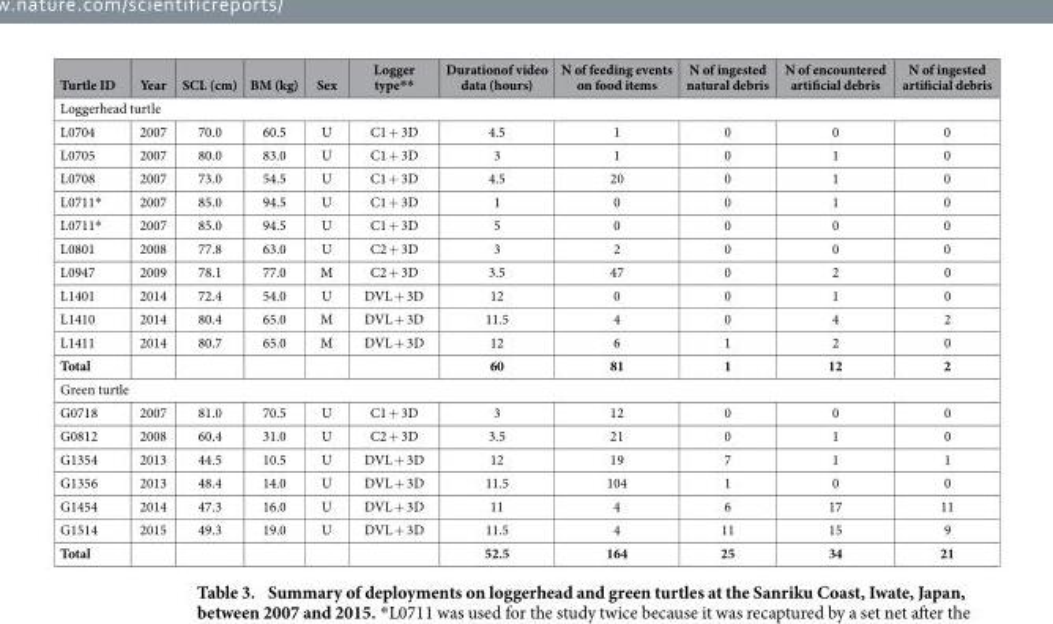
<table><thead><tr><td>Turtle ID</td><td>Year</td><td>SCL (cm)</td><td>BM (kg)</td><td>Sex</td><td>Logger type**</td><td>Durationof video data (hours)</td><td>N of feeding events on food items</td><td>N of ingested natural debris</td><td>N of encountered artificial debris</td><td>N of ingested artificial debris</td></tr></thead><tbody><tr><td colspan="11">Loggerhead turtle</td></tr><tr><td>L0704</td><td>2007</td><td>70.0</td><td>60.5</td><td>U</td><td>C1 + 3D</td><td>4.5</td><td>1</td><td>0</td><td>0</td><td>0</td></tr><tr><td>L0705</td><td>2007</td><td>80.0</td><td>83.0</td><td>U</td><td>C1 + 3D</td><td>3</td><td>1</td><td>0</td><td>1</td><td>0</td></tr><tr><td>L0708</td><td>2007</td><td>73.0</td><td>54.5</td><td>U</td><td>C1 + 3D</td><td>4.5</td><td>20</td><td>0</td><td>1</td><td>0</td></tr><tr><td>L0711*</td><td>2007</td><td>85.0</td><td>94.5</td><td>U</td><td>C1 + 3D</td><td>1</td><td>0</td><td>0</td><td>1</td><td>0</td></tr><tr><td>L0711*</td><td>2007</td><td>85.0</td><td>94.5</td><td>U</td><td>C1 + 3D</td><td>5</td><td>0</td><td>0</td><td>0</td><td>0</td></tr><tr><td>L0801</td><td>2008</td><td>77.8</td><td>63.0</td><td>U</td><td>C2 + 3D</td><td>3</td><td>2</td><td>0</td><td>0</td><td>0</td></tr><tr><td>L0947</td><td>2009</td><td>78.1</td><td>77.0</td><td>M</td><td>C2 + 3D</td><td>3.5</td><td>47</td><td>0</td><td>2</td><td>0</td></tr><tr><td>L1401</td><td>2014</td><td>72.4</td><td>54.0</td><td>U</td><td>DVL + 3D</td><td>12</td><td>0</td><td>0</td><td>1</td><td>0</td></tr><tr><td>L1410</td><td>2014</td><td>80.4</td><td>65.0</td><td>M</td><td>DVL + 3D</td><td>11.5</td><td>4</td><td>0</td><td>4</td><td>2</td></tr><tr><td>L1411</td><td>2014</td><td>80.7</td><td>65.0</td><td>M</td><td>DVL + 3D</td><td>12</td><td>6</td><td>1</td><td>2</td><td>0</td></tr><tr><td>Total</td><td></td><td></td><td></td><td></td><td></td><td>60</td><td>81</td><td>1</td><td>12</td><td>2</td></tr><tr><td colspan="11">Green turtle</td></tr><tr><td>G0718</td><td>2007</td><td>81.0</td><td>70.5</td><td>U</td><td>C1 + 3D</td><td>3</td><td>12</td><td>0</td><td>0</td><td>0</td></tr><tr><td>G0812</td><td>2008</td><td>60.4</td><td>31.0</td><td>U</td><td>C2 + 3D</td><td>3.5</td><td>21</td><td>0</td><td>1</td><td>0</td></tr><tr><td>G1354</td><td>2013</td><td>44.5</td><td>10.5</td><td>U</td><td>DVL + 3D</td><td>12</td><td>19</td><td>7</td><td>1</td><td>1</td></tr><tr><td>G1356</td><td>2013</td><td>48.4</td><td>14.0</td><td>U</td><td>DVL + 3D</td><td>11.5</td><td>104</td><td>1</td><td>0</td><td>0</td></tr><tr><td>G1454</td><td>2014</td><td>47.3</td><td>16.0</td><td>U</td><td>DVL + 3D</td><td>11</td><td>4</td><td>6</td><td>17</td><td>11</td></tr><tr><td>G1514</td><td>2015</td><td>49.3</td><td>19.0</td><td>U</td><td>DVL + 3D</td><td>11.5</td><td>4</td><td>11</td><td>15</td><td>9</td></tr><tr><td>Total</td><td></td><td></td><td></td><td></td><td></td><td>52.5</td><td>164</td><td>25</td><td>34</td><td>21</td></tr></tbody></table>